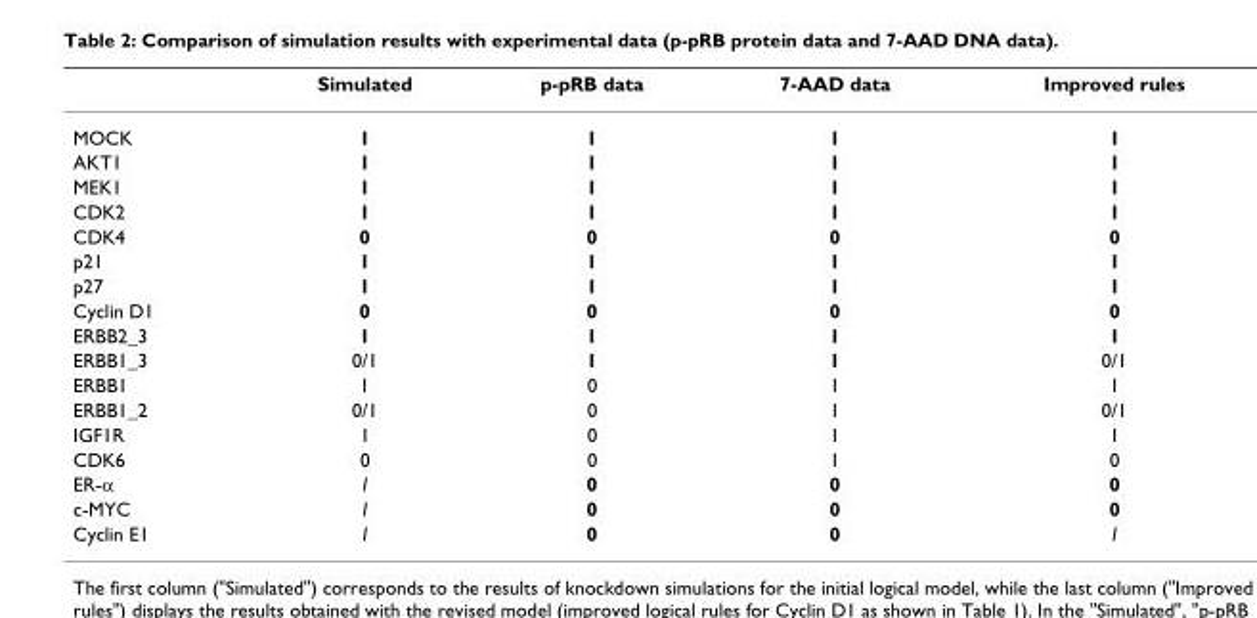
<table><thead><tr><td></td><td>Simulated</td><td>p-pRB data</td><td>7-AAD data</td><td>Improved rules</td></tr></thead><tbody><tr><td>MOCK</td><td>1</td><td>1</td><td>1</td><td>1</td></tr><tr><td>AKT1</td><td>1</td><td>1</td><td>1</td><td>1</td></tr><tr><td>MEK1</td><td>1</td><td>1</td><td>1</td><td>1</td></tr><tr><td>CDK2</td><td>1</td><td>1</td><td>1</td><td>1</td></tr><tr><td>CDK4</td><td>0</td><td>0</td><td>0</td><td>0</td></tr><tr><td>p21</td><td>1</td><td>1</td><td>1</td><td>1</td></tr><tr><td>p27</td><td>1</td><td>1</td><td>1</td><td>1</td></tr><tr><td>Cyclin D1</td><td>0</td><td>0</td><td>0</td><td>0</td></tr><tr><td>ERBB2_3</td><td>1</td><td>1</td><td>1</td><td>1</td></tr><tr><td>ERBB1_3</td><td>0/1</td><td>1</td><td>1</td><td>0/1</td></tr><tr><td>ERBB1</td><td>1</td><td>0</td><td>1</td><td>1</td></tr><tr><td>ERBB1_2</td><td>0/1</td><td>0</td><td>1</td><td>0/1</td></tr><tr><td>IGF1R</td><td>1</td><td>0</td><td>1</td><td>1</td></tr><tr><td>CDK6</td><td>0</td><td>0</td><td>1</td><td>0</td></tr><tr><td>ER-α</td><td>1</td><td>0</td><td>0</td><td>0</td></tr><tr><td>c-MYC</td><td>1</td><td>0</td><td>0</td><td>0</td></tr><tr><td>Cyclin E1</td><td>1</td><td>0</td><td>0</td><td>1</td></tr></tbody></table>